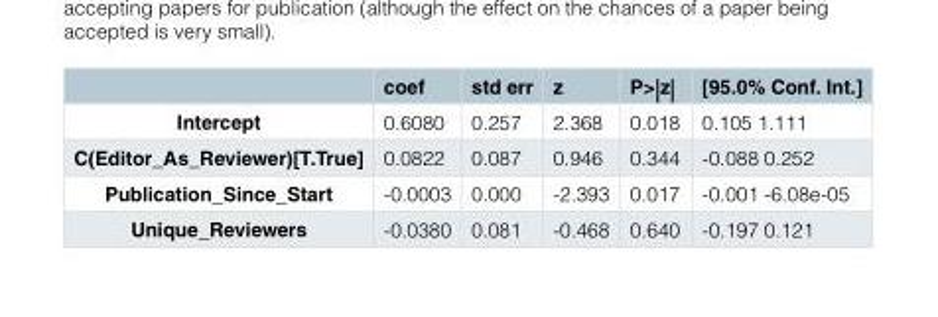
<table><thead><tr><td></td><td>coef</td><td>std err</td><td>z</td><td>P&gt;|z|</td><td>[95.0% Conf. Int.]</td></tr></thead><tbody><tr><td>Intercept</td><td>0.6080</td><td>0.257</td><td>2.368</td><td>0.018</td><td>0.105 1.111</td></tr><tr><td>C(Editor_As_Reviewer)[T.True]</td><td>0.0822</td><td>0.087</td><td>0.946</td><td>0.344</td><td>-0.088 0.252</td></tr><tr><td>Publication_Since_Start</td><td>-0.0003</td><td>0.000</td><td>-2.393</td><td>0.017</td><td>-0.001 -6.08e-05</td></tr><tr><td>Unique_Reviewers</td><td>-0.0380</td><td>0.081</td><td>-0.468</td><td>0.640</td><td>-0.197 0.121</td></tr></tbody></table>